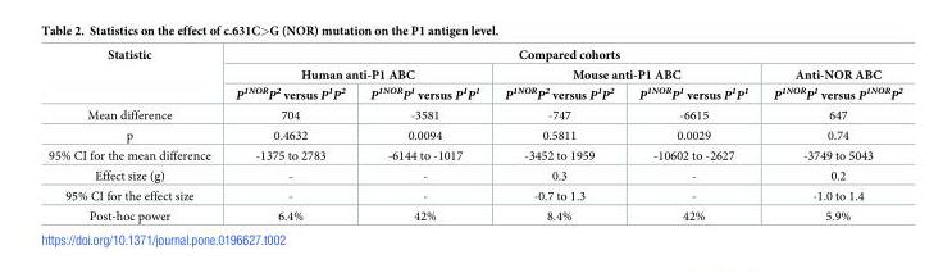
<table><thead><tr><td rowspan="3">Statistic</td><td colspan="5">Compared cohorts</td></tr><tr><td colspan="2">Human anti-P1 ABC</td><td colspan="2">Mouse anti-P1 ABC</td><td rowspan="2">Anti-NOR ABC P<sup>1NOR</sup>P<sup>1</sup> versus P<sup>1NOR</sup>P<sup>2</sup></td></tr><tr><td>P<sup>1NOR</sup>P<sup>2</sup> versus P<sup>1</sup>P<sup>2</sup></td><td>P<sup>1NOR</sup>P<sup>1</sup> versus P<sup>1</sup>P<sup>1</sup></td><td>P<sup>1NOR</sup>P<sup>2</sup> versus P<sup>1</sup>P<sup>2</sup></td><td>P<sup>1NOR</sup>P<sup>1</sup> versus P<sup>1</sup>P<sup>1</sup></td></tr></thead><tbody><tr><td>Mean difference</td><td>704</td><td>-3581</td><td>-747</td><td>-6615</td><td>647</td></tr><tr><td>p</td><td>0.4632</td><td>0.0094</td><td>0.5811</td><td>0.0029</td><td>0.74</td></tr><tr><td>95% CI for the mean difference</td><td>-1375 to 2783</td><td>-6144 to -1017</td><td>-3452 to 1959</td><td>-10602 to -2627</td><td>-3749 to 5043</td></tr><tr><td>Effect size (g)</td><td>-</td><td>-</td><td>0.3</td><td>-</td><td>0.2</td></tr><tr><td>95% CI for the effect size</td><td>-</td><td>-</td><td>-0.7 to 1.3</td><td>-</td><td>-1.0 to 1.4</td></tr><tr><td>Post-hoc power</td><td>6.4%</td><td>42%</td><td>8.4%</td><td>42%</td><td>5.9%</td></tr></tbody></table>